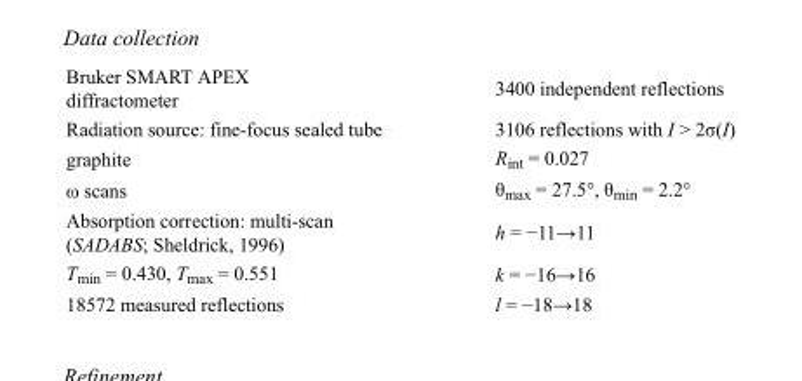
<table><tbody><tr><td>Bruker SMART APEX diffractometer</td><td>3400 independent reflections</td></tr><tr><td>Radiation source: fine-focus sealed tube</td><td>3106 reflections with I &gt; 2σ(I)</td></tr><tr><td>graphite</td><td>R<sub>int</sub> = 0.027</td></tr><tr><td>ω scans</td><td>θ<sub>max</sub> = 27.5°, θ<sub>min</sub> = 2.2°</td></tr><tr><td>Absorption correction: multi-scan (SADABS; Sheldrick, 1996)</td><td>h = −11→11</td></tr><tr><td>T<sub>min</sub> = 0.430, T<sub>max</sub> = 0.551</td><td>k = −16→16</td></tr><tr><td>18572 measured reflections</td><td>l = −18→18</td></tr></tbody></table>